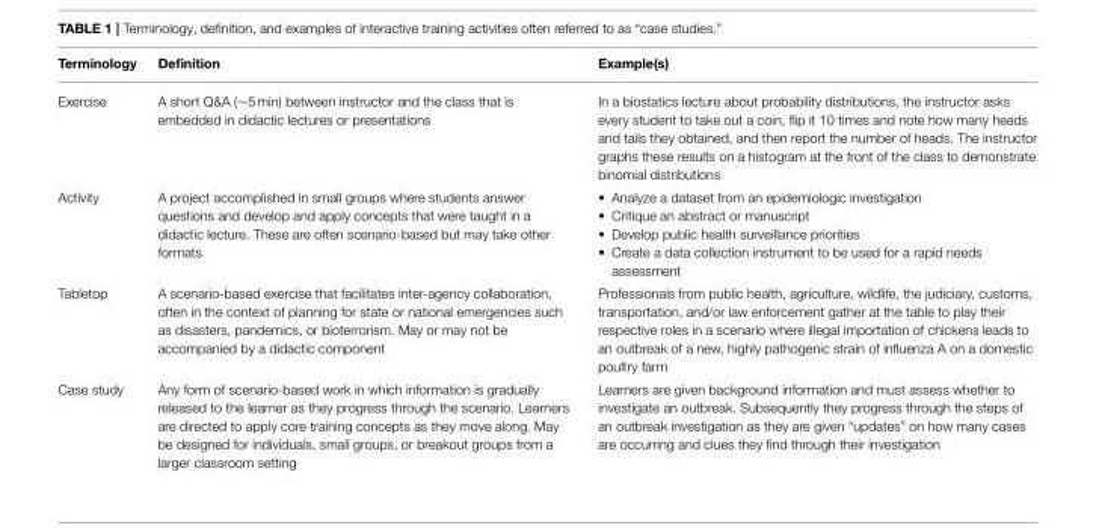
<table><thead><tr><td>Terminology</td><td>Definition</td><td>Example(s)</td></tr></thead><tbody><tr><td>Exercise</td><td>A short Q&amp;A (∼5 min) between instructor and the class that is embedded in didactic lectures or presentations</td><td>In a biostatics lecture about probability distributions, the instructor asks every student to take out a coin, flip it 10 times and note how many heads and tails they obtained, and then report the number of heads. The instructor graphs these results on a histogram at the front of the class to demonstrate binomial distributions</td></tr><tr><td>Activity</td><td>A project accomplished in small groups where students answer questions and develop and apply concepts that were taught in a didactic lecture. These are often scenario-based but may take other formats</td><td>• Analyze a dataset from an epidemiologic investigation • Critique an abstract or manuscript • Develop public health surveillance priorities • Create a data collection instrument to be used for a rapid needs assessment</td></tr><tr><td>Tabletop</td><td>A scenario-based exercise that facilitates inter-agency collaboration, often in the context of planning for state or national emergencies such as disasters, pandemics, or bioterrorism. May or may not be accompanied by a didactic component</td><td>Professionals from public health, agriculture, wildlife, the judiciary, customs, transportation, and/or law enforcement gather at the table to play their respective roles in a scenario where illegal importation of chickens leads to an outbreak of a new, highly pathogenic strain of influenza A on a domestic poultry farm</td></tr><tr><td>Case study</td><td>Any form of scenario-based work in which information is gradually released to the learner as they progress through the scenario. Learners are directed to apply core training concepts as they move along. May be designed for individuals, small groups, or breakout groups from a larger classroom setting</td><td>Learners are given background information and must assess whether to investigate an outbreak. Subsequently they progress through the steps of an outbreak investigation as they are given “updates” on how many cases are occurring and clues they find through their investigation</td></tr></tbody></table>